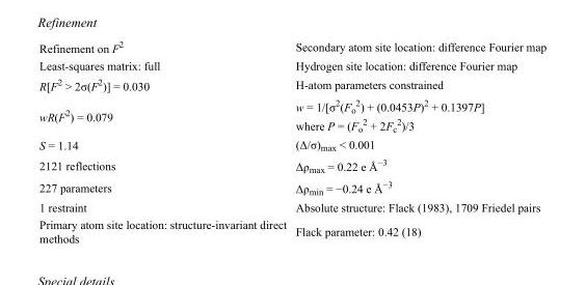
<table><tbody><tr><td>Refinement on F<sup>2</sup></td><td>Secondary atom site location: difference Fourier map</td></tr><tr><td>Least-squares matrix: full</td><td>Hydrogen site location: difference Fourier map</td></tr><tr><td>R[F<sup>2</sup> &gt; 2σ(F<sup>2</sup>)] = 0.030</td><td>H-atom parameters constrained</td></tr><tr><td>wR(F<sup>2</sup>) = 0.079</td><td>w = 1/[σ<sup>2</sup>(F<sub>o</sub> <sup>2</sup>) + (0.0453P)<sup>2</sup> + 0.1397P] where P = (F<sub>o</sub> <sup>2</sup> + 2F<sub>c</sub> <sup>2</sup>)/3</td></tr><tr><td>S = 1.14</td><td>(Δ/σ)<sub>max</sub> &lt; 0.001</td></tr><tr><td>2121 reflections</td><td>Δρ<sub>max</sub> = 0.22 e Å<sup>−3</sup></td></tr><tr><td>227 parameters</td><td>Δρ<sub>min</sub> = −0.24 e Å<sup>−3</sup></td></tr><tr><td>1 restraint</td><td>Absolute structure: Flack (1983), 1709 Friedel pairs</td></tr><tr><td>Primary atom site location: structure-invariant direct methods</td><td>Flack parameter: 0.42 (18)</td></tr></tbody></table>